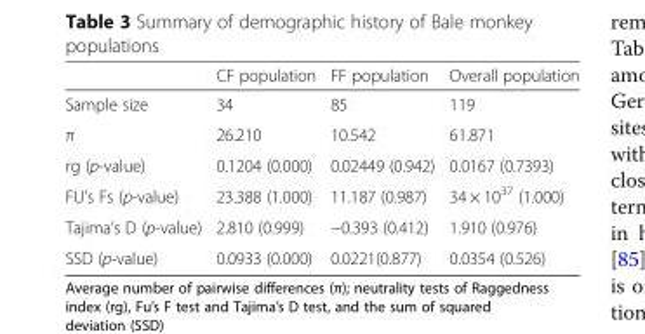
<table><thead><tr><td></td><td>CF population</td><td>FF population</td><td>Overall population</td></tr></thead><tbody><tr><td>Sample size</td><td>34</td><td>85</td><td>119</td></tr><tr><td>π</td><td>26.210</td><td>10.542</td><td>61.871</td></tr><tr><td>rg (p-value)</td><td>0.1204 (0.000)</td><td>0.02449 (0.942)</td><td>0.0167 (0.7393)</td></tr><tr><td>FU’s Fs (p-value)</td><td>23.388 (1.000)</td><td>11.187 (0.987)</td><td>34 × 10<sup>37</sup> (1.000)</td></tr><tr><td>Tajima’s D (p-value)</td><td>2.810 (0.999)</td><td>−0.393 (0.412)</td><td>1.910 (0.976)</td></tr><tr><td>SSD (p-value)</td><td>0.0933 (0.000)</td><td>0.0221(0.877)</td><td>0.0354 (0.526)</td></tr></tbody></table>